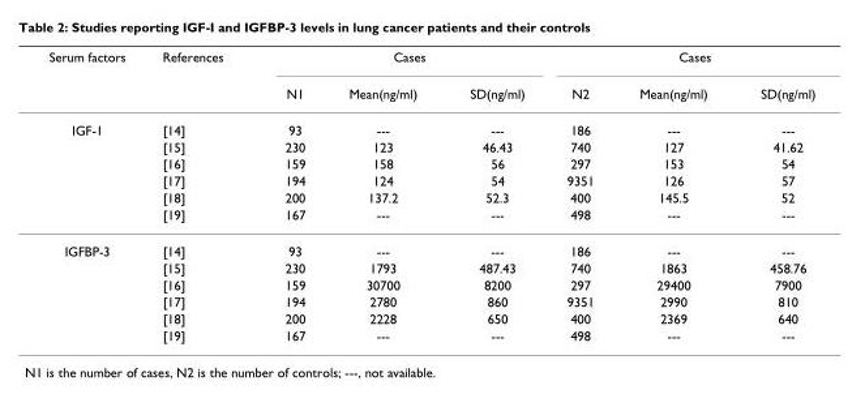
<table><thead><tr><td rowspan="2">Serum factors</td><td rowspan="2">References</td><td colspan="3">Cases</td><td colspan="3">Cases</td></tr><tr><td>N1</td><td>Mean(ng/ml)</td><td>SD(ng/ml)</td><td>N2</td><td>Mean(ng/ml)</td><td>SD(ng/ml)</td></tr></thead><tbody><tr><td rowspan="6">IGF-1</td><td>[14]</td><td>93</td><td>---</td><td>---</td><td>186</td><td>---</td><td>---</td></tr><tr><td>[15]</td><td>230</td><td>123</td><td>46.43</td><td>740</td><td>127</td><td>41.62</td></tr><tr><td>[16]</td><td>159</td><td>158</td><td>56</td><td>297</td><td>153</td><td>54</td></tr><tr><td>[17]</td><td>194</td><td>124</td><td>54</td><td>9351</td><td>126</td><td>57</td></tr><tr><td>[18]</td><td>200</td><td>137.2</td><td>52.3</td><td>400</td><td>145.5</td><td>52</td></tr><tr><td>[19]</td><td>167</td><td>---</td><td>---</td><td>498</td><td>---</td><td>---</td></tr><tr><td rowspan="6">IGFBP-3</td><td>[14]</td><td>93</td><td>---</td><td>---</td><td>186</td><td>---</td><td>---</td></tr><tr><td>[15]</td><td>230</td><td>1793</td><td>487.43</td><td>740</td><td>1863</td><td>458.76</td></tr><tr><td>[16]</td><td>159</td><td>30700</td><td>8200</td><td>297</td><td>29400</td><td>7900</td></tr><tr><td>[17]</td><td>194</td><td>2780</td><td>860</td><td>9351</td><td>2990</td><td>810</td></tr><tr><td>[18]</td><td>200</td><td>2228</td><td>650</td><td>400</td><td>2369</td><td>640</td></tr><tr><td>[19]</td><td>167</td><td>---</td><td>---</td><td>498</td><td>---</td><td>---</td></tr></tbody></table>